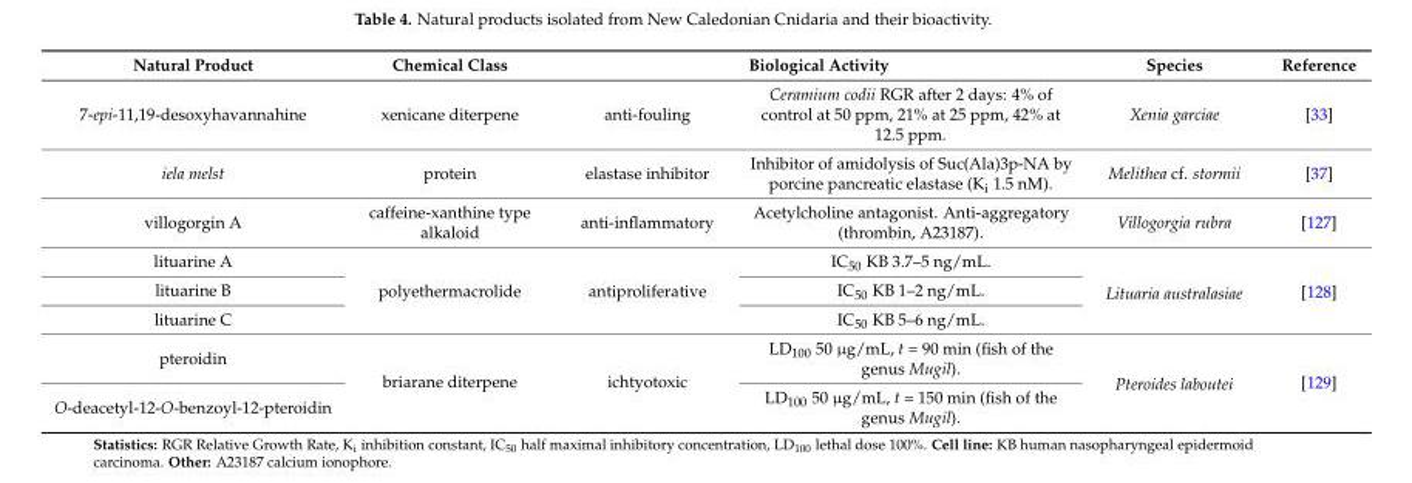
<table><thead><tr><td rowspan="2">Natural Product 7-epi-11,19-desoxyhavannahine</td><td rowspan="2">Chemical Class xenicane diterpene</td><td colspan="2">Biological Activity</td><td rowspan="2">Species Xenia garciae</td><td rowspan="2">Reference [33]</td></tr><tr><td>anti-fouling</td><td>Ceramium codii RGR after 2 days: 4% of control at 50 ppm, 21% at 25 ppm, 42% at 12.5 ppm.</td></tr></thead><tbody><tr><td>iela melst</td><td>protein</td><td>elastase inhibitor</td><td>Inhibitor of amidolysis of Suc(Ala)3p-NA by porcine pancreatic elastase (K<sub>i</sub> 1.5 nM).</td><td>Melithea cf. stormii</td><td>[37]</td></tr><tr><td>villogorgin A</td><td>caffeine-xanthine type alkaloid</td><td>anti-inflammatory</td><td>Acetylcholine antagonist. Anti-aggregatory (thrombin, A23187).</td><td>Villogorgia rubra</td><td>[127]</td></tr><tr><td>lituarine A</td><td rowspan="3">polyethermacrolide</td><td rowspan="3">antiproliferative</td><td>IC<sub>50</sub> KB 3.7–5 ng/mL.</td><td rowspan="3">Lituaria australasiae</td><td rowspan="3">[128]</td></tr><tr><td>lituarine B</td><td>IC<sub>50</sub> KB 1–2 ng/mL.</td></tr><tr><td>lituarine C</td><td>IC<sub>50</sub> KB 5–6 ng/mL.</td></tr><tr><td>pteroidin</td><td rowspan="2">briarane diterpene</td><td rowspan="2">ichtyotoxic</td><td>LD<sub>100</sub> 50 µg/mL, t = 90 min (fish of the genus Mugil).</td><td rowspan="2">Pteroides laboutei</td><td rowspan="2">[129]</td></tr><tr><td>O-deacetyl-12-O-benzoyl-12-pteroidin</td><td>LD<sub>100</sub> 50 µg/mL, t = 150 min (fish of the genus Mugil).</td></tr></tbody></table>